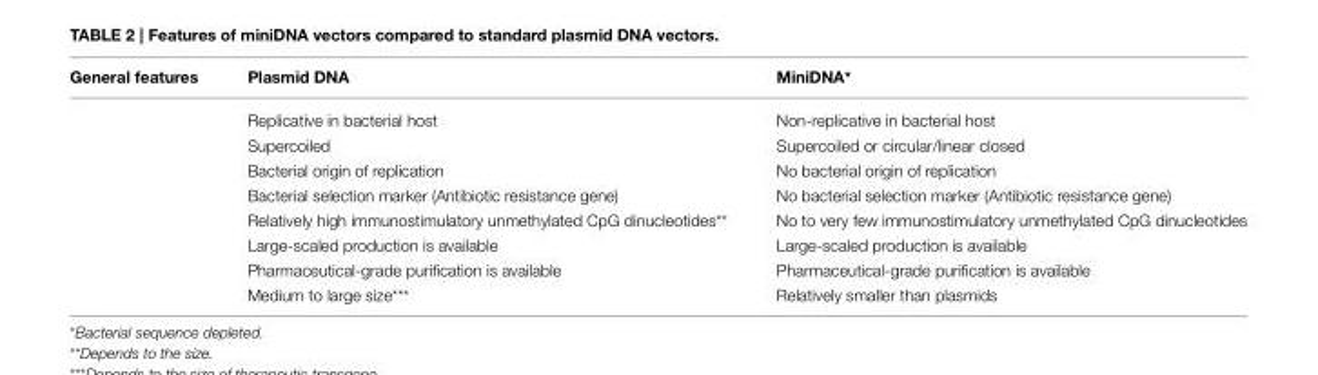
<table><thead><tr><td>General features</td><td>Plasmid DNA</td><td>MiniDNA*</td></tr></thead><tbody><tr><td></td><td>Replicative in bacterial host</td><td>Non-replicative in bacterial host</td></tr><tr><td></td><td>Supercoiled</td><td>Supercoiled or circular/linear closed</td></tr><tr><td></td><td>Bacterial origin of replication</td><td>No bacterial origin of replication</td></tr><tr><td></td><td>Bacterial selection marker (Antibiotic resistance gene)</td><td>No bacterial selection marker (Antibiotic resistance gene)</td></tr><tr><td></td><td>Relatively high immunostimulatory unmethylated CpG dinucleotides**</td><td>No to very few immunostimulatory unmethylated CpG dinucleotides</td></tr><tr><td></td><td>Large-scaled production is available</td><td>Large-scaled production is available</td></tr><tr><td></td><td>Pharmaceutical-grade purification is available</td><td>Pharmaceutical-grade purification is available</td></tr><tr><td></td><td>Medium to large size***</td><td>Relatively smaller than plasmids</td></tr></tbody></table>